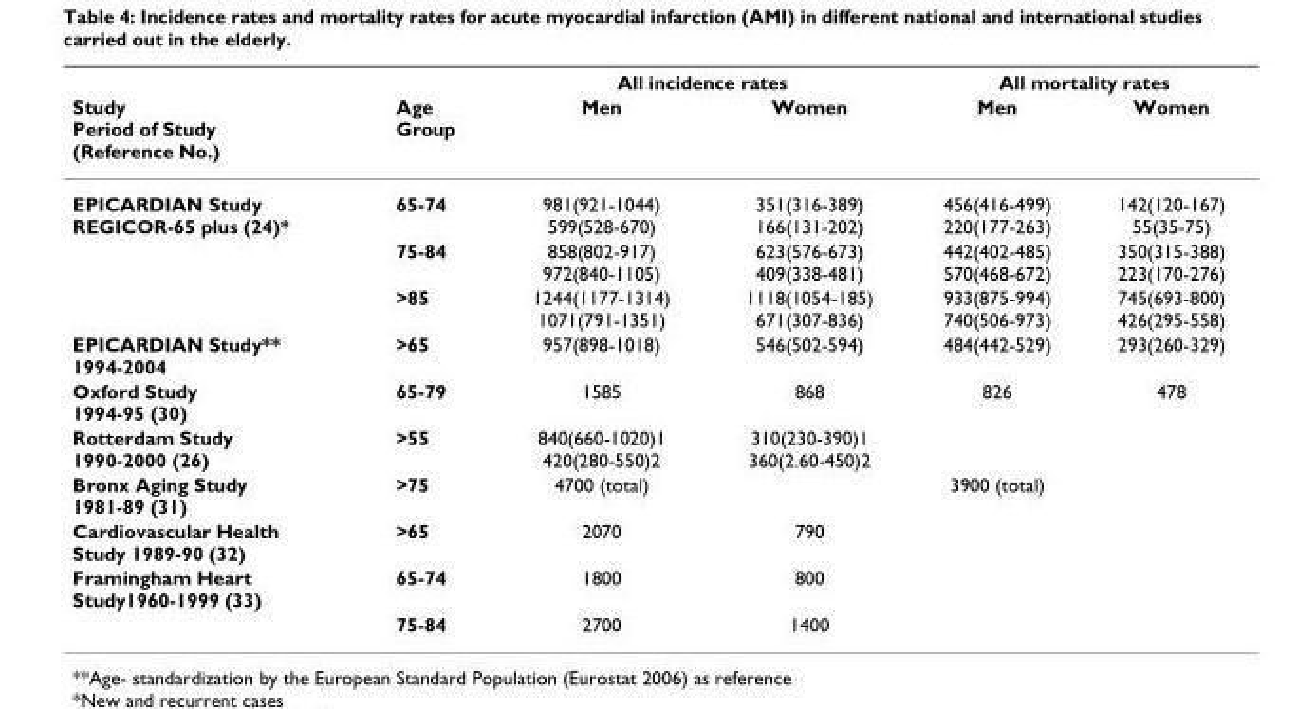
<table><thead><tr><td rowspan="2">Study Period of Study (Reference No.)</td><td rowspan="2">Age Group</td><td colspan="2">All incidence rates</td><td colspan="2">All mortality rates</td></tr><tr><td>Men</td><td>Women</td><td>Men</td><td>Women</td></tr></thead><tbody><tr><td rowspan="3">EPICARDIAN Study REGICOR-65 plus (24)*</td><td>65-74</td><td>981(921-1044) 599(528-670)</td><td>351(316-389) 166(131-202)</td><td>456(416-499) 220(177-263)</td><td>142(120-167) 55(35-75)</td></tr><tr><td>75-84</td><td>858(802-917) 972(840-1105)</td><td>623(576-673) 409(338-481)</td><td>442(402-485) 570(468-672)</td><td>350(315-388) 223(170-276)</td></tr><tr><td>&gt;85</td><td>1244(1177-1314) 1071(791-1351)</td><td>1118(1054-185) 671(307-836)</td><td>933(875-994) 740(506-973)</td><td>745(693-800) 426(295-558)</td></tr><tr><td>EPICARDIAN Study** 1994-2004</td><td>&gt;65</td><td>957(898-1018)</td><td>546(502-594)</td><td>484(442-529)</td><td>293(260-329)</td></tr><tr><td>Oxford Study 1994-95 (30)</td><td>65-79</td><td>1585</td><td>868</td><td>826</td><td>478</td></tr><tr><td>Rotterdam Study 1990-2000 (26)</td><td>&gt;55</td><td>840(660-1020)1 420(280-550)2</td><td>310(230-390)1 360(2.60-450)2</td><td></td><td></td></tr><tr><td>Bronx Aging Study 1981-89 (31)</td><td>&gt;75</td><td>4700 (total)</td><td></td><td>3900 (total)</td><td></td></tr><tr><td>Cardiovascular Health Study 1989-90 (32)</td><td>&gt;65</td><td>2070</td><td>790</td><td></td><td></td></tr><tr><td rowspan="2">Framingham Heart Study1960-1999 (33)</td><td>65-74</td><td>1800</td><td>800</td><td></td><td></td></tr><tr><td>75-84</td><td>2700</td><td>1400</td><td></td><td></td></tr></tbody></table>